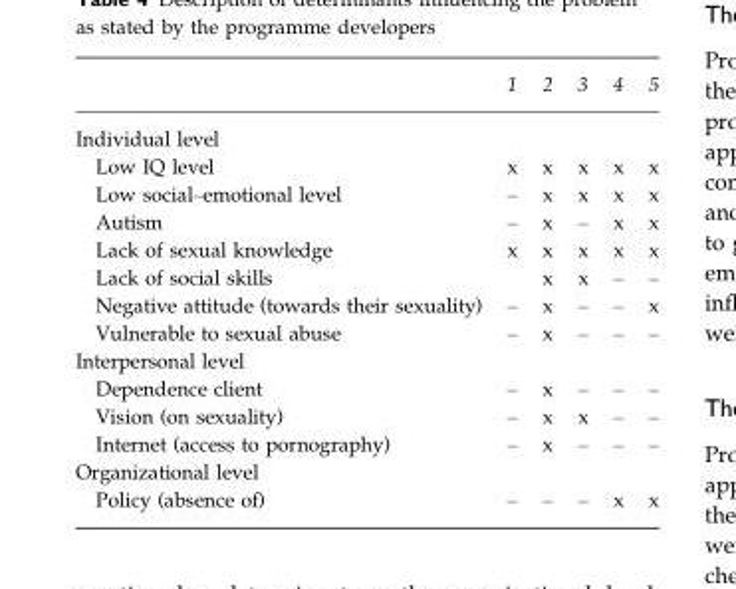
<table><thead><tr><td></td><td>1</td><td>2</td><td>3</td><td>4</td><td>5</td></tr></thead><tbody><tr><td colspan="6">Individual level</td></tr><tr><td>Low IQ level</td><td>x</td><td>x</td><td>x</td><td>x</td><td>x</td></tr><tr><td>Low social–emotional level</td><td>–</td><td>x</td><td>x</td><td>x</td><td>x</td></tr><tr><td>Autism</td><td>–</td><td>x</td><td>–</td><td>x</td><td>x</td></tr><tr><td>Lack of sexual knowledge</td><td>x</td><td>x</td><td>x</td><td>x</td><td>x</td></tr><tr><td>Lack of social skills</td><td></td><td>x</td><td>x</td><td>–</td><td>–</td></tr><tr><td>Negative attitude (towards their sexuality)</td><td>–</td><td>x</td><td>–</td><td>–</td><td>x</td></tr><tr><td>Vulnerable to sexual abuse</td><td>–</td><td>x</td><td>–</td><td>–</td><td>–</td></tr><tr><td colspan="6">Interpersonal level</td></tr><tr><td>Dependence client</td><td>–</td><td>x</td><td>–</td><td>–</td><td>–</td></tr><tr><td>Vision (on sexuality)</td><td>–</td><td>x</td><td>x</td><td>–</td><td>–</td></tr><tr><td>Internet (access to pornography)</td><td>–</td><td>x</td><td>–</td><td>–</td><td>–</td></tr><tr><td colspan="6">Organizational level</td></tr><tr><td>Policy (absence of)</td><td>–</td><td>–</td><td>–</td><td>x</td><td>x</td></tr></tbody></table>